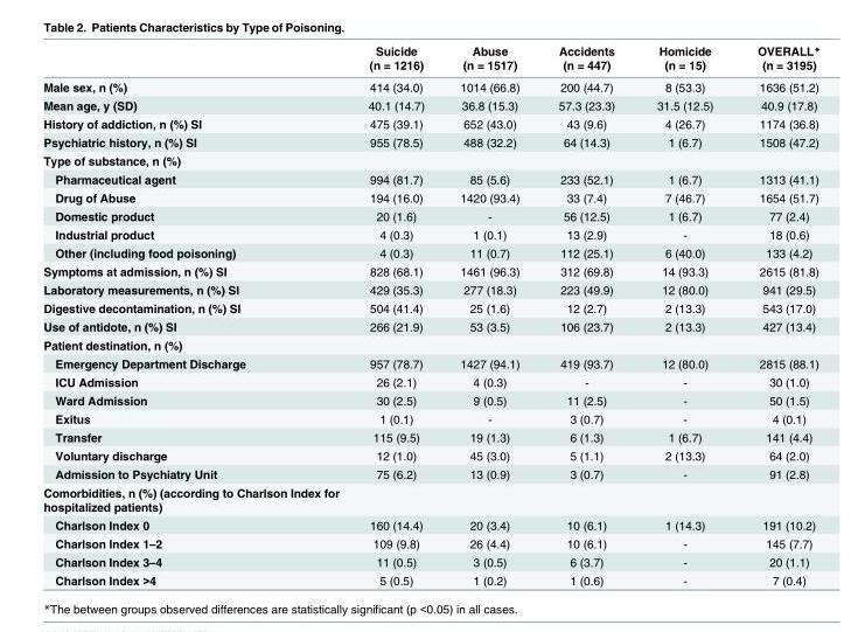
<table><thead><tr><td></td><td>Suicide (n = 1216)</td><td>Abuse (n = 1517)</td><td>Accidents (n = 447)</td><td>Homicide (n = 15)</td><td>OVERALL* (n = 3195)</td></tr></thead><tbody><tr><td>Male sex, n (%)</td><td>414 (34.0)</td><td>1014 (66.8)</td><td>200 (44.7)</td><td>8 (53.3)</td><td>1636 (51.2)</td></tr><tr><td>Mean age, y (SD)</td><td>40.1 (14.7)</td><td>36.8 (15.3)</td><td>57.3 (23.3)</td><td>31.5 (12.5)</td><td>40.9 (17.8)</td></tr><tr><td>History of addiction, n (%) SI</td><td>475 (39.1)</td><td>652 (43.0)</td><td>43 (9.6)</td><td>4 (26.7)</td><td>1174 (36.8)</td></tr><tr><td>Psychiatric history, n (%) SI</td><td>955 (78.5)</td><td>488 (32.2)</td><td>64 (14.3)</td><td>1 (6.7)</td><td>1508 (47.2)</td></tr><tr><td colspan="6">Type of substance, n (%)</td></tr><tr><td>Pharmaceutical agent</td><td>994 (81.7)</td><td>85 (5.6)</td><td>233 (52.1)</td><td>1 (6.7)</td><td>1313 (41.1)</td></tr><tr><td>Drug of Abuse</td><td>194 (16.0)</td><td>1420 (93.4)</td><td>33 (7.4)</td><td>7 (46.7)</td><td>1654 (51.7)</td></tr><tr><td>Domestic product</td><td>20 (1.6)</td><td>-</td><td>56 (12.5)</td><td>1 (6.7)</td><td>77 (2.4)</td></tr><tr><td>Industrial product</td><td>4 (0.3)</td><td>1 (0.1)</td><td>13 (2.9)</td><td>-</td><td>18 (0.6)</td></tr><tr><td>Other (including food poisoning)</td><td>4 (0.3)</td><td>11 (0.7)</td><td>112 (25.1)</td><td>6 (40.0)</td><td>133 (4.2)</td></tr><tr><td>Symptoms at admission, n (%) SI</td><td>828 (68.1)</td><td>1461 (96.3)</td><td>312 (69.8)</td><td>14 (93.3)</td><td>2615 (81.8)</td></tr><tr><td>Laboratory measurements, n (%) SI</td><td>429 (35.3)</td><td>277 (18.3)</td><td>223 (49.9)</td><td>12 (80.0)</td><td>941 (29.5)</td></tr><tr><td>Digestive decontamination, n (%) SI</td><td>504 (41.4)</td><td>25 (1.6)</td><td>12 (2.7)</td><td>2 (13.3)</td><td>543 (17.0)</td></tr><tr><td>Use of antidote, n (%) SI</td><td>266 (21.9)</td><td>53 (3.5)</td><td>106 (23.7)</td><td>2 (13.3)</td><td>427 (13.4)</td></tr><tr><td colspan="6">Patient destination, n (%)</td></tr><tr><td>Emergency Department Discharge</td><td>957 (78.7)</td><td>1427 (94.1)</td><td>419 (93.7)</td><td>12 (80.0)</td><td>2815 (88.1)</td></tr><tr><td>ICU Admission</td><td>26 (2.1)</td><td>4 (0.3)</td><td>-</td><td>-</td><td>30 (1.0)</td></tr><tr><td>Ward Admission</td><td>30 (2.5)</td><td>9 (0.5)</td><td>11 (2.5)</td><td>-</td><td>50 (1.5)</td></tr><tr><td>Exitus</td><td>1 (0.1)</td><td>-</td><td>3 (0.7)</td><td>-</td><td>4 (0.1)</td></tr><tr><td>Transfer</td><td>115 (9.5)</td><td>19 (1.3)</td><td>6 (1.3)</td><td>1 (6.7)</td><td>141 (4.4)</td></tr><tr><td>Voluntary discharge</td><td>12 (1.0)</td><td>45 (3.0)</td><td>5 (1.1)</td><td>2 (13.3)</td><td>64 (2.0)</td></tr><tr><td>Admission to Psychiatry Unit</td><td>75 (6.2)</td><td>13 (0.9)</td><td>3 (0.7)</td><td>-</td><td>91 (2.8)</td></tr><tr><td colspan="6">Comorbidities, n (%) (according to Charlson Index for hospitalized patients)</td></tr><tr><td>Charlson Index 0</td><td>160 (14.4)</td><td>20 (3.4)</td><td>10 (6.1)</td><td>1 (14.3)</td><td>191 (10.2)</td></tr><tr><td>Charlson Index 1–2</td><td>109 (9.8)</td><td>26 (4.4)</td><td>10 (6.1)</td><td>-</td><td>145 (7.7)</td></tr><tr><td>Charlson Index 3–4</td><td>11 (0.5)</td><td>3 (0.5)</td><td>6 (3.7)</td><td>-</td><td>20 (1.1)</td></tr><tr><td>Charlson Index &gt;4</td><td>5 (0.5)</td><td>1 (0.2)</td><td>1 (0.6)</td><td>-</td><td>7 (0.4)</td></tr></tbody></table>